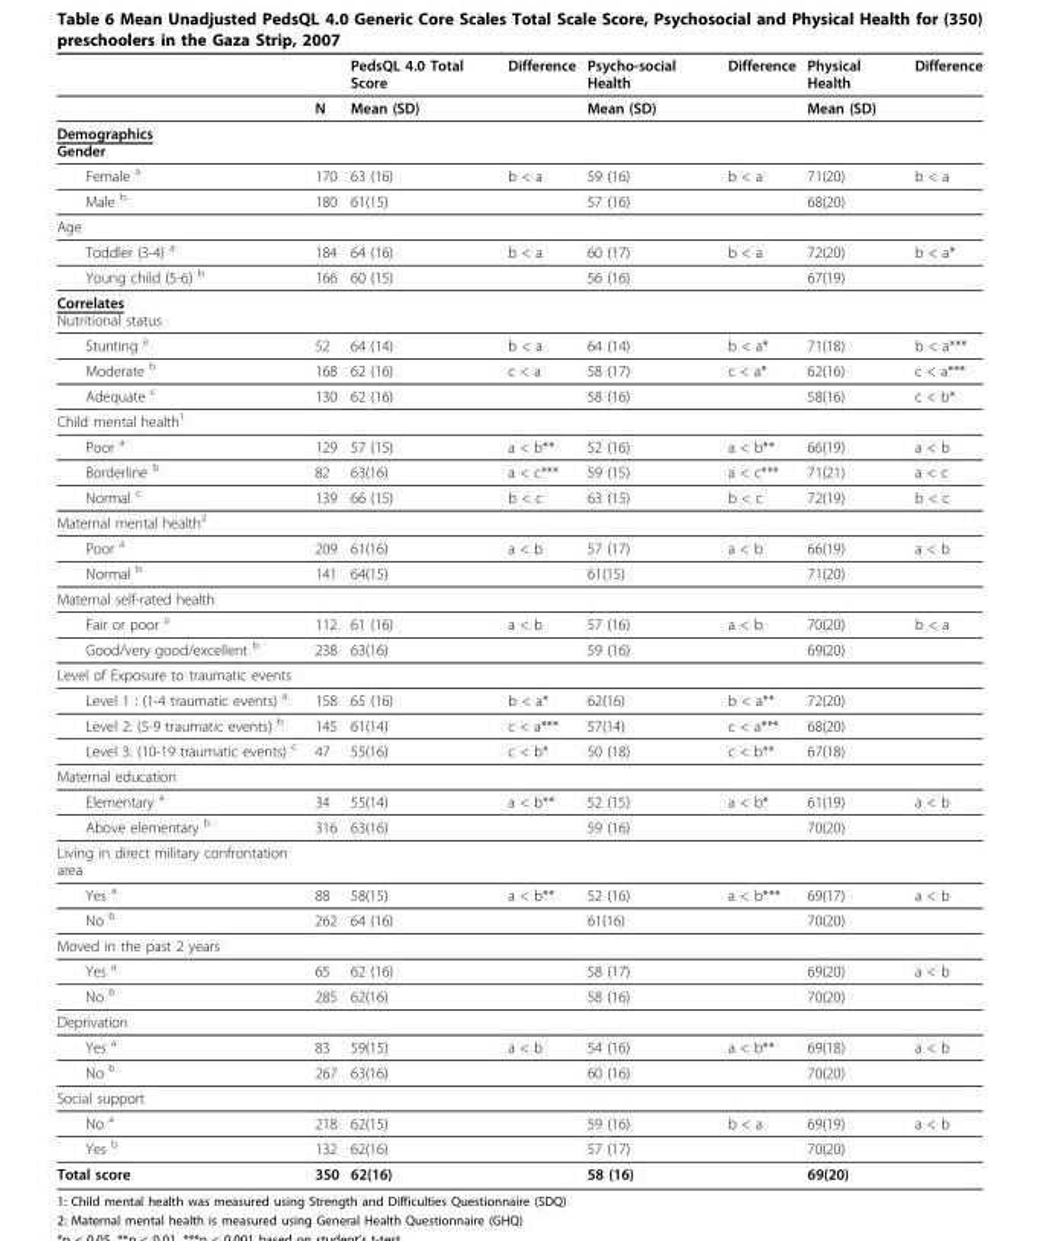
<table><thead><tr><td></td><td></td><td>PedsQL 4.0 Total Score</td><td>Difference</td><td>Psycho-social Health</td><td>Difference</td><td>Physical Health</td><td>Difference</td></tr></thead><tbody><tr><td></td><td>N</td><td>Mean (SD)</td><td></td><td>Mean (SD)</td><td></td><td>Mean (SD)</td><td></td></tr><tr><td colspan="8">Demographics Gender</td></tr><tr><td>Female <sup>a</sup></td><td>170</td><td>63 (16)</td><td>b &lt; a</td><td>59 (16)</td><td>b &lt; a</td><td>71(20)</td><td>b &lt; a</td></tr><tr><td>Male <sup>b</sup></td><td>180</td><td>61(15)</td><td></td><td>57 (16)</td><td></td><td>68(20)</td><td></td></tr><tr><td colspan="8">Age</td></tr><tr><td>Toddler (3-4) <sup>a</sup></td><td>184</td><td>64 (16)</td><td>b &lt; a</td><td>60 (17)</td><td>b &lt; a</td><td>72(20)</td><td>b &lt; a*</td></tr><tr><td>Young child (5-6) <sup>b</sup></td><td>166</td><td>60 (15)</td><td></td><td>56 (16)</td><td></td><td>67(19)</td><td></td></tr><tr><td colspan="8">Correlates Nutritional status</td></tr><tr><td>Stunting <sup>a</sup></td><td>52</td><td>64 (14)</td><td>b &lt; a</td><td>64 (14)</td><td>b &lt; a*</td><td>71(18)</td><td>b &lt; a***</td></tr><tr><td>Moderate <sup>b</sup></td><td>168</td><td>62 (16)</td><td>c &lt; a</td><td>58 (17)</td><td>c &lt; a*</td><td>62(16)</td><td>c &lt; a***</td></tr><tr><td>Adequate <sup>c</sup></td><td>130</td><td>62 (16)</td><td></td><td>58 (16)</td><td></td><td>58(16)</td><td>c &lt; b*</td></tr><tr><td colspan="8">Child mental health<sup>1</sup></td></tr><tr><td>Poor <sup>a</sup></td><td>129</td><td>57 (15)</td><td>a &lt; b**</td><td>52 (16)</td><td>a &lt; b**</td><td>66(19)</td><td>a &lt; b</td></tr><tr><td>Borderline <sup>b</sup></td><td>82</td><td>63(16)</td><td>a &lt; c***</td><td>59 (15)</td><td>a &lt; c***</td><td>71(21)</td><td>a &lt; c</td></tr><tr><td>Normal <sup>c</sup></td><td>139</td><td>66 (15)</td><td>b &lt; c</td><td>63 (15)</td><td>b &lt; c</td><td>72(19)</td><td>b &lt; c</td></tr><tr><td colspan="8">Maternal mental health<sup>2</sup></td></tr><tr><td>Poor <sup>a</sup></td><td>209</td><td>61(16)</td><td>a &lt; b</td><td>57 (17)</td><td>a &lt; b</td><td>66(19)</td><td>a &lt; b</td></tr><tr><td>Normal <sup>b</sup></td><td>141</td><td>64(15)</td><td></td><td>61(15)</td><td></td><td>71(20)</td><td></td></tr><tr><td colspan="8">Maternal self-rated health</td></tr><tr><td>Fair or poor <sup>a</sup></td><td>112</td><td>61 (16)</td><td>a &lt; b</td><td>57 (16)</td><td>a &lt; b</td><td>70(20)</td><td>b &lt; a</td></tr><tr><td>Good/very good/excellent <sup>b</sup></td><td>238</td><td>63(16)</td><td></td><td>59 (16)</td><td></td><td>69(20)</td><td></td></tr><tr><td colspan="8">Level of Exposure to traumatic events</td></tr><tr><td>Level 1 : (1-4 traumatic events) <sup>a</sup></td><td>158</td><td>65 (16)</td><td>b &lt; a*</td><td>62(16)</td><td>b &lt; a**</td><td>72(20)</td><td></td></tr><tr><td>Level 2: (5-9 traumatic events) <sup>b</sup></td><td>145</td><td>61(14)</td><td>c &lt; a***</td><td>57(14)</td><td>c &lt; a***</td><td>68(20)</td><td></td></tr><tr><td>Level 3: (10-19 traumatic events) <sup>c</sup></td><td>47</td><td>55(16)</td><td>c &lt; b*</td><td>50 (18)</td><td>c &lt; b**</td><td>67(18)</td><td></td></tr><tr><td colspan="8">Maternal education</td></tr><tr><td>Elementary <sup>a</sup></td><td>34</td><td>55(14)</td><td>a &lt; b**</td><td>52 (15)</td><td>a &lt; b*</td><td>61(19)</td><td>a &lt; b</td></tr><tr><td>Above elementary <sup>b</sup></td><td>316</td><td>63(16)</td><td></td><td>59 (16)</td><td></td><td>70(20)</td><td></td></tr><tr><td colspan="8">Living in direct military confrontation area</td></tr><tr><td>Yes <sup>a</sup></td><td>88</td><td>58(15)</td><td>a &lt; b**</td><td>52 (16)</td><td>a &lt; b***</td><td>69(17)</td><td>a &lt; b</td></tr><tr><td>No <sup>b</sup></td><td>262</td><td>64 (16)</td><td></td><td>61(16)</td><td></td><td>70(20)</td><td></td></tr><tr><td colspan="8">Moved in the past 2 years</td></tr><tr><td>Yes <sup>a</sup></td><td>65</td><td>62 (16)</td><td></td><td>58 (17)</td><td></td><td>69(20)</td><td>a &lt; b</td></tr><tr><td>No <sup>b</sup></td><td>285</td><td>62(16)</td><td></td><td>58 (16)</td><td></td><td>70(20)</td><td></td></tr><tr><td colspan="8">Deprivation</td></tr><tr><td>Yes <sup>a</sup></td><td>83</td><td>59(15)</td><td>a &lt; b</td><td>54 (16)</td><td>a &lt; b**</td><td>69(18)</td><td>a &lt; b</td></tr><tr><td>No <sup>b</sup></td><td>267</td><td>63(16)</td><td></td><td>60 (16)</td><td></td><td>70(20)</td><td></td></tr><tr><td colspan="8">Social support</td></tr><tr><td>No <sup>a</sup></td><td>218</td><td>62(15)</td><td></td><td>59 (16)</td><td>b &lt; a</td><td>69(19)</td><td>a &lt; b</td></tr><tr><td>Yes <sup>b</sup></td><td>132</td><td>62(16)</td><td></td><td>57 (17)</td><td></td><td>70(20)</td><td></td></tr><tr><td>Total score</td><td>350</td><td>62(16)</td><td></td><td>58 (16)</td><td></td><td>69(20)</td><td></td></tr></tbody></table>